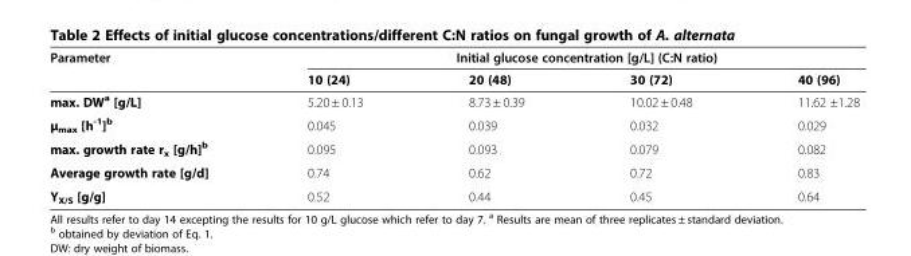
<table><thead><tr><td rowspan="2">Parameter</td><td colspan="4">Initial glucose concentration [g/L] (C:N ratio)</td></tr><tr><td>10 (24)</td><td>20 (48)</td><td>30 (72)</td><td>40 (96)</td></tr></thead><tbody><tr><td>max. DW<sup>a</sup> [g/L]</td><td>5.20 ± 0.13</td><td>8.73 ± 0.39</td><td>10.02 ± 0.48</td><td>11.62 ±1.28</td></tr><tr><td>μ<sub>max</sub> [h<sup>-1</sup>]<sup>b</sup></td><td>0.045</td><td>0.039</td><td>0.032</td><td>0.029</td></tr><tr><td>max. growth rate r<sub>x</sub> [g/h]<sup>b</sup></td><td>0.095</td><td>0.093</td><td>0.079</td><td>0.082</td></tr><tr><td>Average growth rate [g/d]</td><td>0.74</td><td>0.62</td><td>0.72</td><td>0.83</td></tr><tr><td>Y<sub>X/S</sub> [g/g]</td><td>0.52</td><td>0.44</td><td>0.45</td><td>0.64</td></tr></tbody></table>